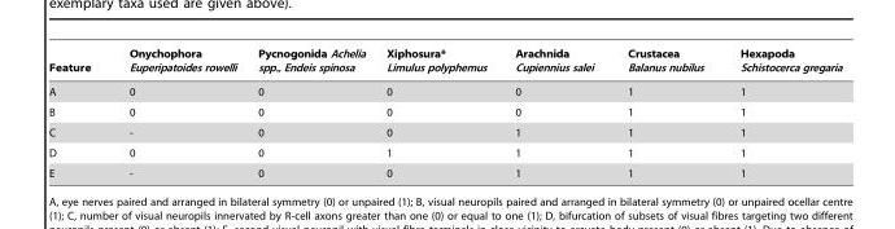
<table><thead><tr><td>Feature</td><td>Onychophora Euperipatoides rowelli</td><td>Pycnogonida Achelia spp., Endeis spinosa</td><td>Xiphosura* Limulus polyphemus</td><td>Arachnida Cupiennius salei</td><td>Crustacea Balanus nubilus</td><td>Hexapoda Schistocerca gregaria</td></tr></thead><tbody><tr><td>A</td><td>0</td><td>0</td><td>0</td><td>0</td><td>1</td><td>1</td></tr><tr><td>B</td><td>0</td><td>0</td><td>0</td><td>0</td><td>1</td><td>1</td></tr><tr><td>C</td><td>-</td><td>0</td><td>0</td><td>1</td><td>1</td><td>1</td></tr><tr><td>D</td><td>0</td><td>0</td><td>1</td><td>1</td><td>1</td><td>1</td></tr><tr><td>E</td><td>-</td><td>0</td><td>0</td><td>1</td><td>1</td><td>1</td></tr></tbody></table>